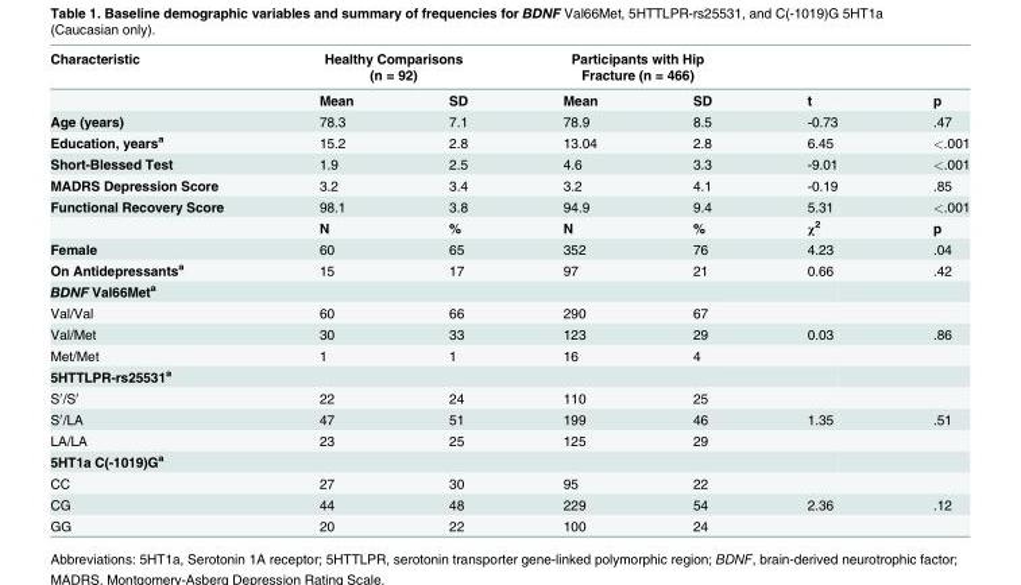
<table><thead><tr><td rowspan="2">Characteristic</td><td colspan="2">Healthy Comparisons (n = 92)</td><td colspan="2">Participants with Hip Fracture (n = 466)</td><td rowspan="2">t</td><td rowspan="2">p</td></tr><tr><td>Mean</td><td>SD</td><td>Mean</td><td>SD</td></tr></thead><tbody><tr><td>Age (years)</td><td>78.3</td><td>7.1</td><td>78.9</td><td>8.5</td><td>-0.73</td><td>.47</td></tr><tr><td>Education, years<sup>a</sup></td><td>15.2</td><td>2.8</td><td>13.04</td><td>2.8</td><td>6.45</td><td>&lt;.001</td></tr><tr><td>Short-Blessed Test</td><td>1.9</td><td>2.5</td><td>4.6</td><td>3.3</td><td>-9.01</td><td>&lt;.001</td></tr><tr><td>MADRS Depression Score</td><td>3.2</td><td>3.4</td><td>3.2</td><td>4.1</td><td>-0.19</td><td>.85</td></tr><tr><td rowspan="2">Functional Recovery Score</td><td>98.1</td><td>3.8</td><td>94.9</td><td>9.4</td><td>5.31</td><td>&lt;.001</td></tr><tr><td>N</td><td>%</td><td>N</td><td>%</td><td>χ<sup>2</sup></td><td>p</td></tr><tr><td>Female</td><td>60</td><td>65</td><td>352</td><td>76</td><td>4.23</td><td>.04</td></tr><tr><td>On Antidepressants<sup>a</sup></td><td>15</td><td>17</td><td>97</td><td>21</td><td>0.66</td><td>.42</td></tr><tr><td colspan="7">BDNF Val66Met<sup>a</sup></td></tr><tr><td>Val/Val</td><td>60</td><td>66</td><td>290</td><td>67</td><td></td><td></td></tr><tr><td>Val/Met</td><td>30</td><td>33</td><td>123</td><td>29</td><td>0.03</td><td>.86</td></tr><tr><td>Met/Met</td><td>1</td><td>1</td><td>16</td><td>4</td><td></td><td></td></tr><tr><td colspan="7">5HTTLPR-rs25531<sup>a</sup></td></tr><tr><td>S′/S′</td><td>22</td><td>24</td><td>110</td><td>25</td><td></td><td></td></tr><tr><td>S′/LA</td><td>47</td><td>51</td><td>199</td><td>46</td><td>1.35</td><td>.51</td></tr><tr><td>LA/LA</td><td>23</td><td>25</td><td>125</td><td>29</td><td></td><td></td></tr><tr><td colspan="7">5HT1a C(-1019)G<sup>a</sup></td></tr><tr><td>CC</td><td>27</td><td>30</td><td>95</td><td>22</td><td></td><td></td></tr><tr><td>CG</td><td>44</td><td>48</td><td>229</td><td>54</td><td>2.36</td><td>.12</td></tr><tr><td>GG</td><td>20</td><td>22</td><td>100</td><td>24</td><td></td><td></td></tr></tbody></table>